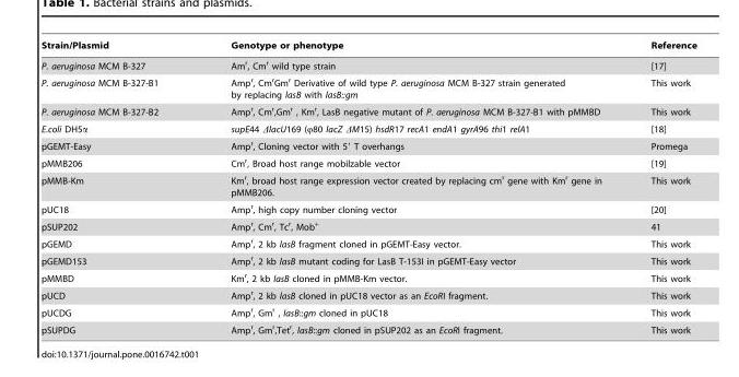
<table><thead><tr><td>Strain/Plasmid</td><td>Genotype or phenotype</td><td>Reference</td></tr></thead><tbody><tr><td>P. aeruginosa MCM B-327</td><td>Am<sup>r</sup>, Cm<sup>r</sup> wild type strain</td><td>[17]</td></tr><tr><td>P. aeruginosa MCM B-327-B1</td><td>Amp<sup>r</sup>, Cm<sup>r</sup>Gm<sup>r</sup> Derivative of wild type P. aeruginosa MCM B-327 strain generated by replacing lasB with lasB::gm</td><td>This work</td></tr><tr><td>P. aeruginosa MCM B-327-B2</td><td>Amp<sup>r</sup>, Cm<sup>r</sup>,Gm<sup>r</sup> , Km<sup>r</sup>, LasB negative mutant of P. aeruginosa MCM B-327-B1 with pMMBD</td><td>This work</td></tr><tr><td>E.coli DH5α</td><td>supE44 ΔlacU169 (ϕ80 lacZ ΔM15) hsdR17 recA1 endA1 gyrA96 thi1 relA1</td><td>[18]</td></tr><tr><td>pGEMT-Easy</td><td>Amp<sup>r</sup>, Cloning vector with 5′ T overhangs</td><td>Promega</td></tr><tr><td>pMMB206</td><td>Cm<sup>r</sup>, Broad host range mobilzable vector</td><td>[19]</td></tr><tr><td>pMMB-Km</td><td>Km<sup>r</sup>, broad host range expression vector created by replacing cm<sup>r</sup> gene with Km<sup>r</sup> gene in pMMB206.</td><td>This work</td></tr><tr><td>pUC18</td><td>Amp<sup>r</sup>, high copy number cloning vector</td><td>[20]</td></tr><tr><td>pSUP202</td><td>Amp<sup>r</sup>, Cm<sup>r</sup>, Tc<sup>r</sup>, Mob<sup>+</sup></td><td>41</td></tr><tr><td>pGEMD</td><td>Amp<sup>r</sup>, 2 kb lasB fragment cloned in pGEMT-Easy vector.</td><td>This work</td></tr><tr><td>pGEMD153</td><td>Amp<sup>r</sup>, 2 kb lasB mutant coding for LasB T-153I in pGEMT-Easy vector</td><td>This work</td></tr><tr><td>pMMBD</td><td>Km<sup>r</sup>, 2 kb lasB cloned in pMMB-Km vector.</td><td>This work</td></tr><tr><td>pUCD</td><td>Amp<sup>r</sup>, 2 kb lasB cloned in pUC18 vector as an EcoRI fragment.</td><td>This work</td></tr><tr><td>pUCDG</td><td>Amp<sup>r</sup>, Gm<sup>r</sup> , lasB::gm cloned in pUC18</td><td>This work</td></tr><tr><td>pSUPDG</td><td>Amp<sup>r</sup>, Gm<sup>r</sup>,Tet<sup>r</sup>, lasB::gm cloned in pSUP202 as an EcoRI fragment.</td><td>This work</td></tr></tbody></table>